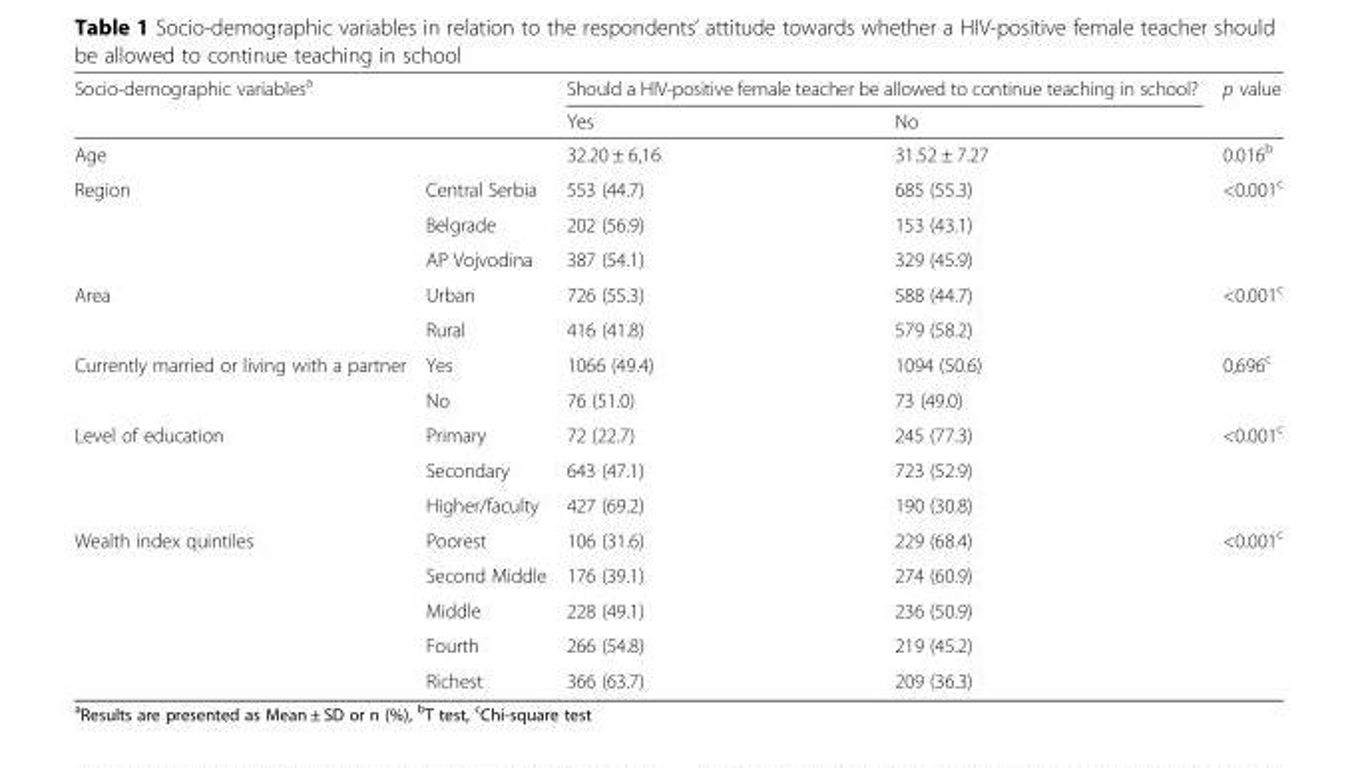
<table><thead><tr><td rowspan="2" colspan="2">Socio-demographic variables<sup>a</sup></td><td colspan="2">Should a HIV-positive female teacher be allowed to continue teaching in school?</td><td rowspan="3">p value 0.016<sup>b</sup></td></tr><tr><td rowspan="2">Yes 32.20 ± 6,16</td><td rowspan="2">No 31.52 ± 7.27</td></tr><tr><td>Age</td><td></td></tr></thead><tbody><tr><td rowspan="3">Region</td><td>Central Serbia</td><td>553 (44.7)</td><td>685 (55.3)</td><td rowspan="3">&lt;0.001<sup>c</sup></td></tr><tr><td>Belgrade</td><td>202 (56.9)</td><td>153 (43.1)</td></tr><tr><td>AP Vojvodina</td><td>387 (54.1)</td><td>329 (45.9)</td></tr><tr><td rowspan="2">Area</td><td>Urban</td><td>726 (55.3)</td><td>588 (44.7)</td><td rowspan="2">&lt;0.001<sup>c</sup></td></tr><tr><td>Rural</td><td>416 (41.8)</td><td>579 (58.2)</td></tr><tr><td rowspan="2">Currently married or living with a partner</td><td>Yes</td><td>1066 (49.4)</td><td>1094 (50.6)</td><td rowspan="2">0,696<sup>c</sup></td></tr><tr><td>No</td><td>76 (51.0)</td><td>73 (49.0)</td></tr><tr><td rowspan="3">Level of education</td><td>Primary</td><td>72 (22.7)</td><td>245 (77.3)</td><td rowspan="3">&lt;0.001<sup>c</sup></td></tr><tr><td>Secondary</td><td>643 (47.1)</td><td>723 (52.9)</td></tr><tr><td>Higher/faculty</td><td>427 (69.2)</td><td>190 (30.8)</td></tr><tr><td rowspan="5">Wealth index quintiles</td><td>Poorest</td><td>106 (31.6)</td><td>229 (68.4)</td><td rowspan="5">&lt;0.001<sup>c</sup></td></tr><tr><td>Second Middle</td><td>176 (39.1)</td><td>274 (60.9)</td></tr><tr><td>Middle</td><td>228 (49.1)</td><td>236 (50.9)</td></tr><tr><td>Fourth</td><td>266 (54.8)</td><td>219 (45.2)</td></tr><tr><td>Richest</td><td>366 (63.7)</td><td>209 (36.3)</td></tr></tbody></table>